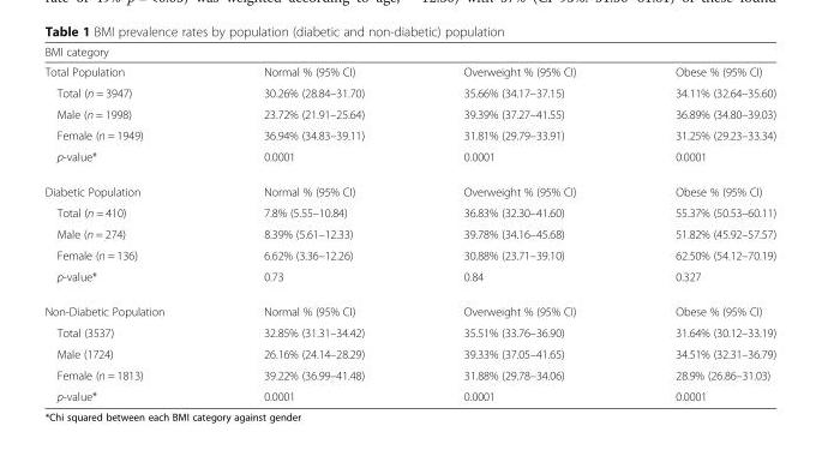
<table><thead><tr><td colspan="4">BMI category</td></tr><tr><td>Total Population</td><td>Normal % (95% CI)</td><td>Overweight % (95% CI)</td><td>Obese % (95% CI)</td></tr></thead><tbody><tr><td>Total (n = 3947)</td><td>30.26% (28.84–31.70)</td><td>35.66% (34.17–37.15)</td><td>34.11% (32.64–35.60)</td></tr><tr><td>Male (n = 1998)</td><td>23.72% (21.91–25.64)</td><td>39.39% (37.27–41.55)</td><td>36.89% (34.80–39.03)</td></tr><tr><td>Female (n = 1949)</td><td>36.94% (34.83–39.11)</td><td>31.81% (29.79–33.91)</td><td>31.25% (29.23–33.34)</td></tr><tr><td>p-value*</td><td>0.0001</td><td>0.0001</td><td>0.0001</td></tr><tr><td>Diabetic Population</td><td>Normal % (95% CI)</td><td>Overweight % (95% CI)</td><td>Obese % (95% CI)</td></tr><tr><td>Total (n = 410)</td><td>7.8% (5.55–10.84)</td><td>36.83% (32.30–41.60)</td><td>55.37% (50.53–60.11)</td></tr><tr><td>Male (n = 274)</td><td>8.39% (5.61–12.33)</td><td>39.78% (34.16–45.68)</td><td>51.82% (45.92–57.57)</td></tr><tr><td>Female (n = 136)</td><td>6.62% (3.36–12.26)</td><td>30.88% (23.71–39.10)</td><td>62.50% (54.12–70.19)</td></tr><tr><td>p-value*</td><td>0.73</td><td>0.84</td><td>0.327</td></tr><tr><td>Non-Diabetic Population</td><td>Normal % (95% CI)</td><td>Overweight % (95% CI)</td><td>Obese % (95% CI)</td></tr><tr><td>Total (3537)</td><td>32.85% (31.31–34.42)</td><td>35.51% (33.76–36.90)</td><td>31.64% (30.12–33.19)</td></tr><tr><td>Male (1724)</td><td>26.16% (24.14–28.29)</td><td>39.33% (37.05–41.65)</td><td>34.51% (32.31–36.79)</td></tr><tr><td>Female (n = 1813)</td><td>39.22% (36.99–41.48)</td><td>31.88% (29.78–34.06)</td><td>28.9% (26.86–31.03)</td></tr><tr><td>p-value*</td><td>0.0001</td><td>0.0001</td><td>0.0001</td></tr></tbody></table>